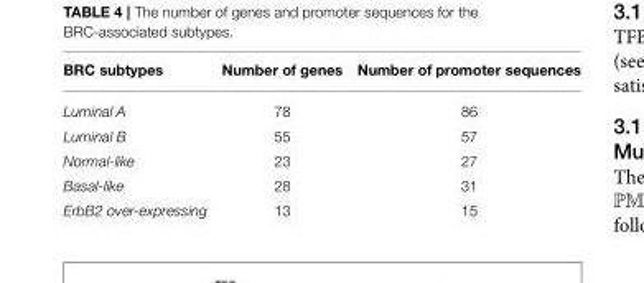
<table><thead><tr><td>BRC subtypes</td><td>Number of genes</td><td>Number of promoter sequences</td></tr></thead><tbody><tr><td>Luminal A</td><td>78</td><td>86</td></tr><tr><td>Luminal B</td><td>55</td><td>57</td></tr><tr><td>Normal-like</td><td>23</td><td>27</td></tr><tr><td>Basal-like</td><td>28</td><td>31</td></tr><tr><td>ErbB2 over-expressing</td><td>13</td><td>15</td></tr></tbody></table>